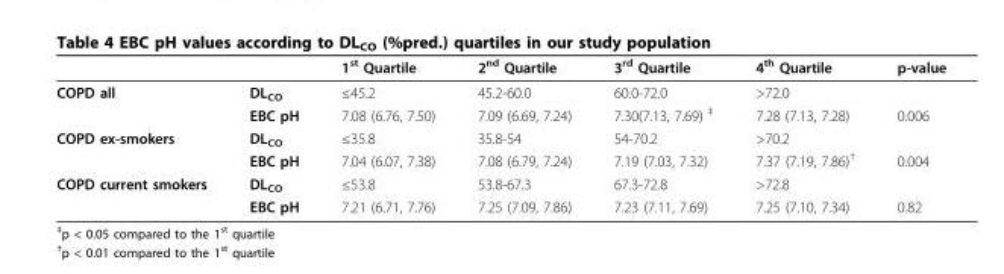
<table><thead><tr><td></td><td></td><td>1<sup>st</sup> Quartile</td><td>2<sup>nd</sup> Quartile</td><td>3<sup>rd</sup> Quartile</td><td>4<sup>th</sup> Quartile</td><td>p-value</td></tr></thead><tbody><tr><td rowspan="2">COPD all</td><td>DL<sub>CO</sub></td><td>≤45.2</td><td>45.2-60.0</td><td>60.0-72.0</td><td>&gt;72.0</td><td></td></tr><tr><td>EBC pH</td><td>7.08 (6.76, 7.50)</td><td>7.09 (6.69, 7.24)</td><td>7.30(7.13, 7.69) <sup>‡</sup></td><td>7.28 (7.13, 7.28)</td><td>0.006</td></tr><tr><td rowspan="2">COPD ex-smokers</td><td>DL<sub>CO</sub></td><td>≤35.8</td><td>35.8-54</td><td>54-70.2</td><td>&gt;70.2</td><td></td></tr><tr><td>EBC pH</td><td>7.04 (6.07, 7.38)</td><td>7.08 (6.79, 7.24)</td><td>7.19 (7.03, 7.32)</td><td>7.37 (7.19, 7.86)<sup>†</sup></td><td>0.004</td></tr><tr><td rowspan="2">COPD current smokers</td><td>DL<sub>CO</sub></td><td>≤53.8</td><td>53.8-67.3</td><td>67.3-72.8</td><td>&gt;72.8</td><td></td></tr><tr><td>EBC pH</td><td>7.21 (6.71, 7.76)</td><td>7.25 (7.09, 7.86)</td><td>7.23 (7.11, 7.69)</td><td>7.25 (7.10, 7.34)</td><td>0.82</td></tr></tbody></table>